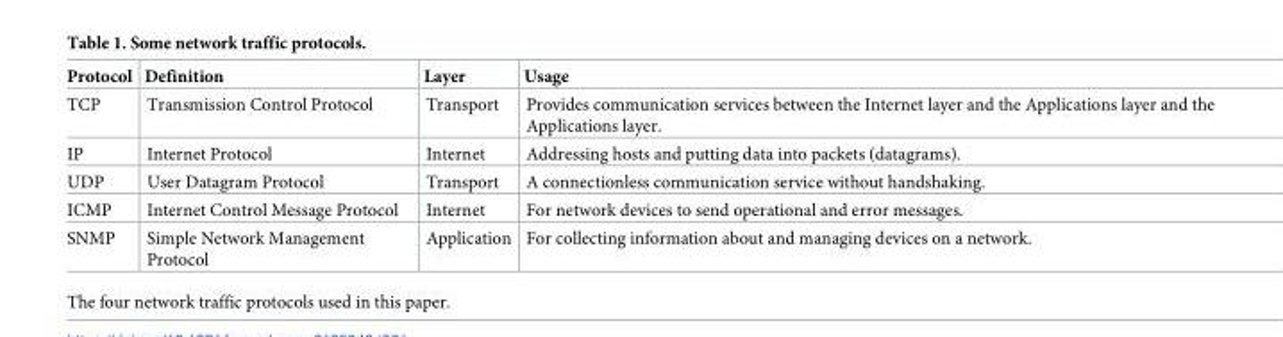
<table><thead><tr><td>Protocol</td><td>Definition</td><td>Layer</td><td>Usage</td></tr></thead><tbody><tr><td>TCP</td><td>Transmission Control Protocol</td><td>Transport</td><td>Provides communication services between the Internet layer and the Applications layer and the Applications layer.</td></tr><tr><td>IP</td><td>Internet Protocol</td><td>Internet</td><td>Addressing hosts and putting data into packets (datagrams).</td></tr><tr><td>UDP</td><td>User Datagram Protocol</td><td>Transport</td><td>A connectionless communication service without handshaking.</td></tr><tr><td>ICMP</td><td>Internet Control Message Protocol</td><td>Internet</td><td>For network devices to send operational and error messages.</td></tr><tr><td>SNMP</td><td>Simple Network Management Protocol</td><td>Application</td><td>For collecting information about and managing devices on a network.</td></tr></tbody></table>